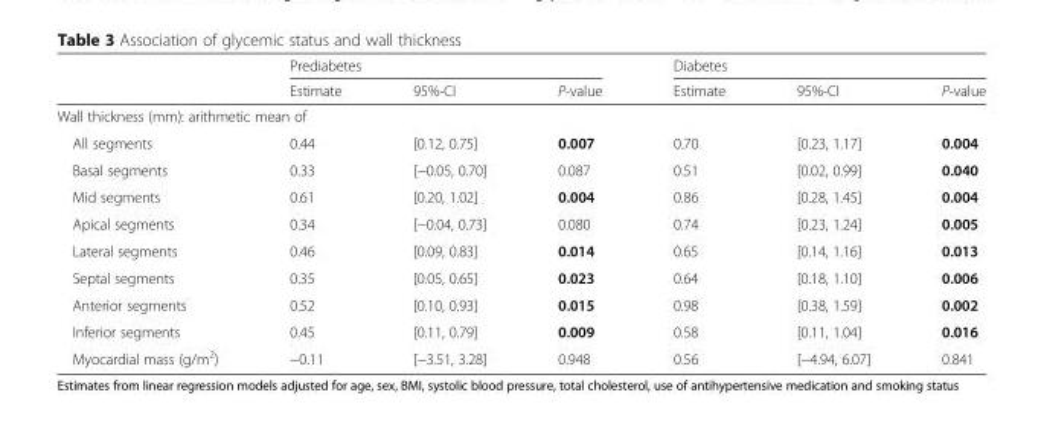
<table><thead><tr><td rowspan="2"></td><td colspan="3">Prediabetes</td><td colspan="3">Diabetes</td></tr><tr><td>Estimate</td><td>95%-CI</td><td>P-value</td><td>Estimate</td><td>95%-CI</td><td>P-value</td></tr></thead><tbody><tr><td colspan="7">Wall thickness (mm): arithmetic mean of</td></tr><tr><td>All segments</td><td>0.44</td><td>[0.12, 0.75]</td><td>0.007</td><td>0.70</td><td>[0.23, 1.17]</td><td>0.004</td></tr><tr><td>Basal segments</td><td>0.33</td><td>[−0.05, 0.70]</td><td>0.087</td><td>0.51</td><td>[0.02, 0.99]</td><td>0.040</td></tr><tr><td>Mid segments</td><td>0.61</td><td>[0.20, 1.02]</td><td>0.004</td><td>0.86</td><td>[0.28, 1.45]</td><td>0.004</td></tr><tr><td>Apical segments</td><td>0.34</td><td>[−0.04, 0.73]</td><td>0.080</td><td>0.74</td><td>[0.23, 1.24]</td><td>0.005</td></tr><tr><td>Lateral segments</td><td>0.46</td><td>[0.09, 0.83]</td><td>0.014</td><td>0.65</td><td>[0.14, 1.16]</td><td>0.013</td></tr><tr><td>Septal segments</td><td>0.35</td><td>[0.05, 0.65]</td><td>0.023</td><td>0.64</td><td>[0.18, 1.10]</td><td>0.006</td></tr><tr><td>Anterior segments</td><td>0.52</td><td>[0.10, 0.93]</td><td>0.015</td><td>0.98</td><td>[0.38, 1.59]</td><td>0.002</td></tr><tr><td>Inferior segments</td><td>0.45</td><td>[0.11, 0.79]</td><td>0.009</td><td>0.58</td><td>[0.11, 1.04]</td><td>0.016</td></tr><tr><td>Myocardial mass (g/m<sup>2</sup>)</td><td>−0.11</td><td>[−3.51, 3.28]</td><td>0.948</td><td>0.56</td><td>[−4.94, 6.07]</td><td>0.841</td></tr></tbody></table>